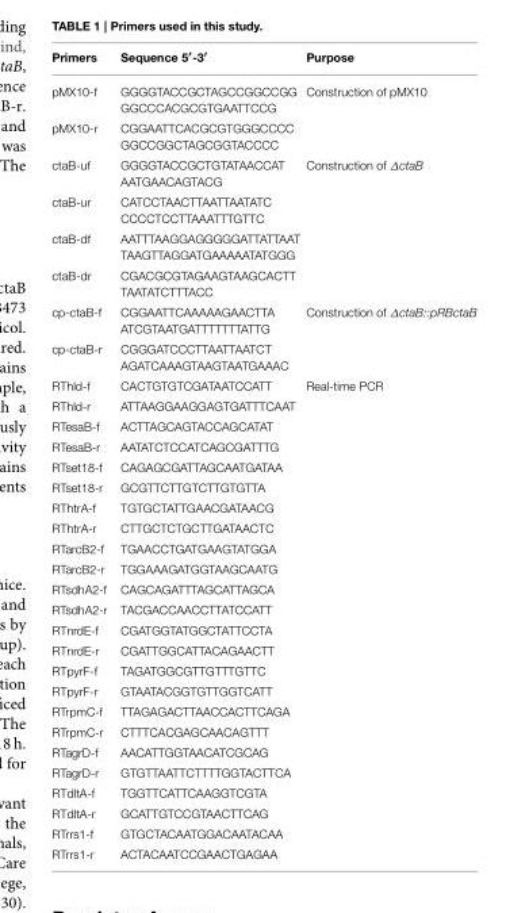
<table><thead><tr><td>Primers</td><td>Sequence 5′-3′</td><td>Purpose</td></tr></thead><tbody><tr><td>pMX10-f</td><td>GGGGTACCGCTAGCCGGCCGG GGCCCACGCGTGAATTCCG</td><td>Construction of pMX10</td></tr><tr><td>pMX10-r</td><td>CGGAATTCACGCGTGGGCCCC GGCCGGCTAGCGGTACCCC</td><td></td></tr><tr><td>ctaB-uf</td><td>GGGGTACCGCTGTATAACCAT AATGAACAGTACG</td><td>Construction of ∆ctaB</td></tr><tr><td>ctaB-ur</td><td>CATCCTAACTTAATTAATATC CCCCTCCTTAAATTTGTTC</td><td></td></tr><tr><td>ctaB-df</td><td>AATTTAAGGAGGGGGATTATTAAT TAAGTTAGGATGAAAAATATGGG</td><td></td></tr><tr><td>ctaB-dr</td><td>CGACGCGTAGAAGTAAGCACTT TAATATCTTTACC</td><td></td></tr><tr><td>cp-ctaB-f</td><td>CGGAATTCAAAAAGAACTTA ATCGTAATGATTTTTTTATTG</td><td>Construction of ∆ctaB::pRBctaB</td></tr><tr><td>cp-ctaB-r</td><td>CGGGATCCCTTAATTAATCT AGATCAAAGTAAGTAATGAAAC</td><td></td></tr><tr><td>RThld-f</td><td>CACTGTGTCGATAATCCATT</td><td>Real-time PCR</td></tr><tr><td>RThld-r</td><td>ATTAAGGAAGGAGTGATTTCAAT</td><td></td></tr><tr><td>RTesaB-f</td><td>ACTTAGCAGTACCAGCATAT</td><td></td></tr><tr><td>RTesaB-r</td><td>AATATCTCCATCAGCGATTTG</td><td></td></tr><tr><td>RTset18-f</td><td>CAGAGCGATTAGCAATGATAA</td><td></td></tr><tr><td>RTset18-r</td><td>GCGTTCTTGTCTTGTGTTA</td><td></td></tr><tr><td>RThtrA-f</td><td>TGTGCTATTGAACGATAACG</td><td></td></tr><tr><td>RThtrA-r</td><td>CTTGCTCTGCTTGATAACTC</td><td></td></tr><tr><td>RTarcB2-f</td><td>TGAACCTGATGAAGTATGGA</td><td></td></tr><tr><td>RTarcB2-r</td><td>TGGAAAGATGGTAAGCAATG</td><td></td></tr><tr><td>RTsdhA2-f</td><td>CAGCAGATTTAGCATTAGCA</td><td></td></tr><tr><td>RTsdhA2-r</td><td>TACGACCAACCTTATCCATT</td><td></td></tr><tr><td>RTnrdE-f</td><td>CGATGGTATGGCTATTCCTA</td><td></td></tr><tr><td>RTnrdE-r</td><td>CGATTGGCATTACAGAACTT</td><td></td></tr><tr><td>RTpyrF-f</td><td>TAGATGGCGTTGTTTGTTC</td><td></td></tr><tr><td>RTpyrF-r</td><td>GTAATACGGTGTTGGTCATT</td><td></td></tr><tr><td>RTrpmC-f</td><td>TTAGAGACTTAACCACTTCAGA</td><td></td></tr><tr><td>RTrpmC-r</td><td>CTTTCACGAGCAACAGTTT</td><td></td></tr><tr><td>RTagrD-f</td><td>AACATTGGTAACATCGCAG</td><td></td></tr><tr><td>RTagrD-r</td><td>GTGTTAATTCTTTTGGTACTTCA</td><td></td></tr><tr><td>RTdltA-f</td><td>TGGTTCATTCAAGGTCGTA</td><td></td></tr><tr><td>RTdltA-r</td><td>GCATTGTCCGTAACTTCAG</td><td></td></tr><tr><td>RTrrs1-f</td><td>GTGCTACAATGGACAATACAA</td><td></td></tr><tr><td>RTrrs1-r</td><td>ACTACAATCCGAACTGAGAA</td><td></td></tr></tbody></table>